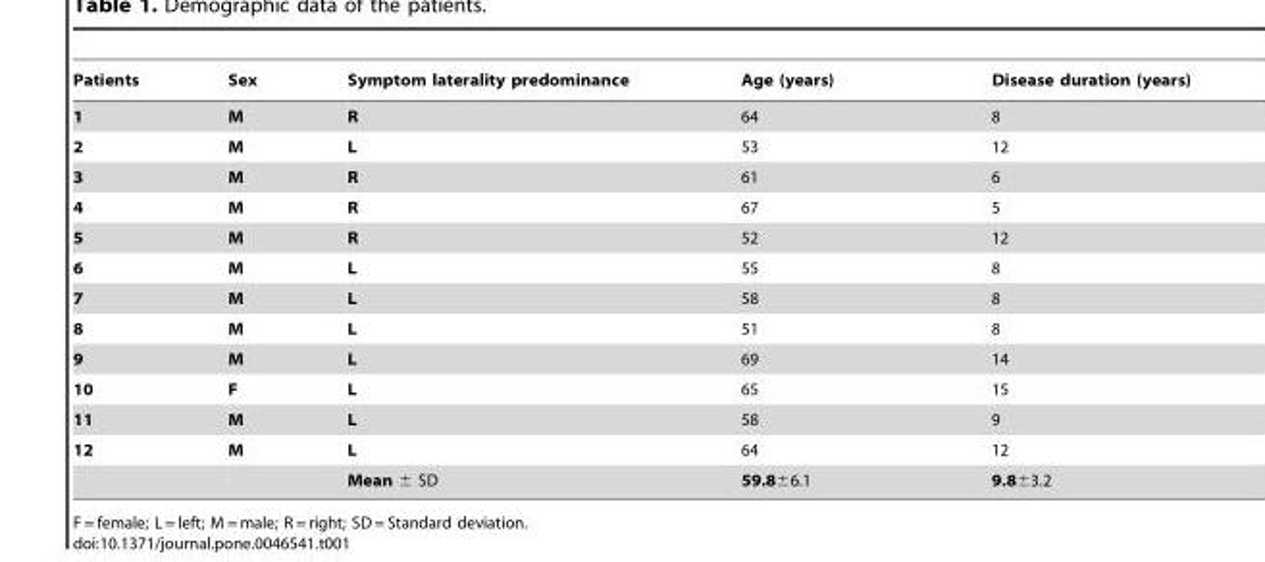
<table><thead><tr><td>Patients</td><td>Sex</td><td>Symptom laterality predominance</td><td>Age (years)</td><td>Disease duration (years)</td></tr></thead><tbody><tr><td>1</td><td>M</td><td>R</td><td>64</td><td>8</td></tr><tr><td>2</td><td>M</td><td>L</td><td>53</td><td>12</td></tr><tr><td>3</td><td>M</td><td>R</td><td>61</td><td>6</td></tr><tr><td>4</td><td>M</td><td>R</td><td>67</td><td>5</td></tr><tr><td>5</td><td>M</td><td>R</td><td>52</td><td>12</td></tr><tr><td>6</td><td>M</td><td>L</td><td>55</td><td>8</td></tr><tr><td>7</td><td>M</td><td>L</td><td>58</td><td>8</td></tr><tr><td>8</td><td>M</td><td>L</td><td>51</td><td>8</td></tr><tr><td>9</td><td>M</td><td>L</td><td>69</td><td>14</td></tr><tr><td>10</td><td>F</td><td>L</td><td>65</td><td>15</td></tr><tr><td>11</td><td>M</td><td>L</td><td>58</td><td>9</td></tr><tr><td rowspan="2">12</td><td>M</td><td>L</td><td>64</td><td>12</td></tr><tr><td></td><td>Mean ± SD</td><td>59.8±6.1</td><td>9.8±3.2</td></tr></tbody></table>